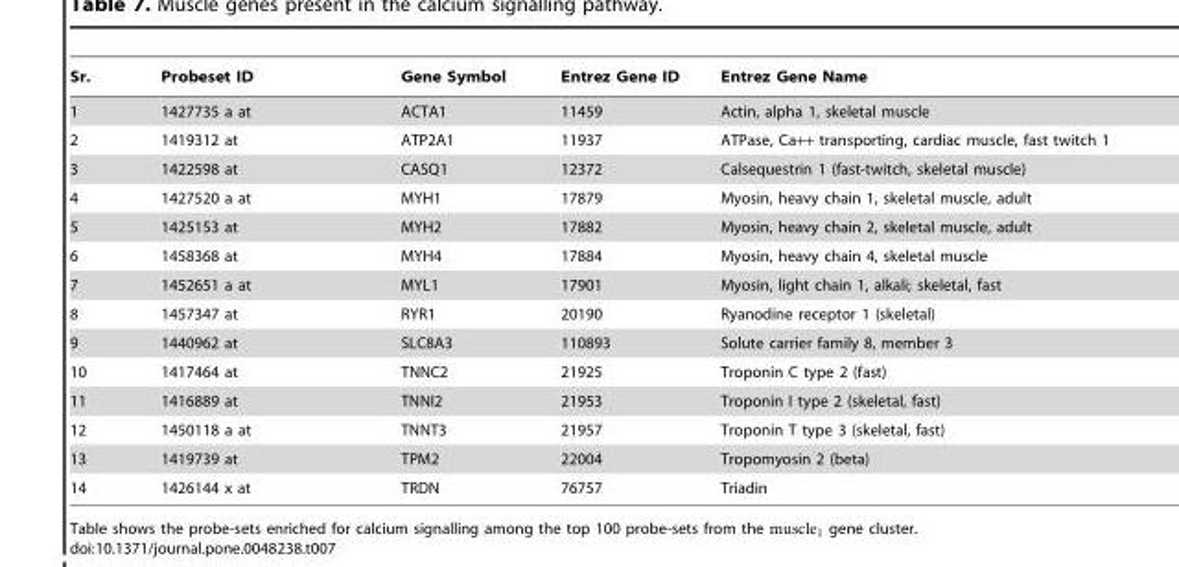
<table><thead><tr><td>Sr.</td><td>Probeset ID</td><td>Gene Symbol</td><td>Entrez Gene ID</td><td>Entrez Gene Name</td></tr></thead><tbody><tr><td>1</td><td>1427735 a at</td><td>ACTA1</td><td>11459</td><td>Actin, alpha 1, skeletal muscle</td></tr><tr><td>2</td><td>1419312 at</td><td>ATP2A1</td><td>11937</td><td>ATPase, Ca++ transporting, cardiac muscle, fast twitch 1</td></tr><tr><td>3</td><td>1422598 at</td><td>CASQ1</td><td>12372</td><td>Calsequestrin 1 (fast-twitch, skeletal muscle)</td></tr><tr><td>4</td><td>1427520 a at</td><td>MYH1</td><td>17879</td><td>Myosin, heavy chain 1, skeletal muscle, adult</td></tr><tr><td>5</td><td>1425153 at</td><td>MYH2</td><td>17882</td><td>Myosin, heavy chain 2, skeletal muscle, adult</td></tr><tr><td>6</td><td>1458368 at</td><td>MYH4</td><td>17884</td><td>Myosin, heavy chain 4, skeletal muscle</td></tr><tr><td>7</td><td>1452651 a at</td><td>MYL1</td><td>17901</td><td>Myosin, light chain 1, alkali; skeletal, fast</td></tr><tr><td>8</td><td>1457347 at</td><td>RYR1</td><td>20190</td><td>Ryanodine receptor 1 (skeletal)</td></tr><tr><td>9</td><td>1440962 at</td><td>SLC8A3</td><td>110893</td><td>Solute carrier family 8, member 3</td></tr><tr><td>10</td><td>1417464 at</td><td>TNNC2</td><td>21925</td><td>Troponin C type 2 (fast)</td></tr><tr><td>11</td><td>1416889 at</td><td>TNNI2</td><td>21953</td><td>Troponin I type 2 (skeletal, fast)</td></tr><tr><td>12</td><td>1450118 a at</td><td>TNNT3</td><td>21957</td><td>Troponin T type 3 (skeletal, fast)</td></tr><tr><td>13</td><td>1419739 at</td><td>TPM2</td><td>22004</td><td>Tropomyosin 2 (beta)</td></tr><tr><td>14</td><td>1426144 x at</td><td>TRDN</td><td>76757</td><td>Triadin</td></tr></tbody></table>